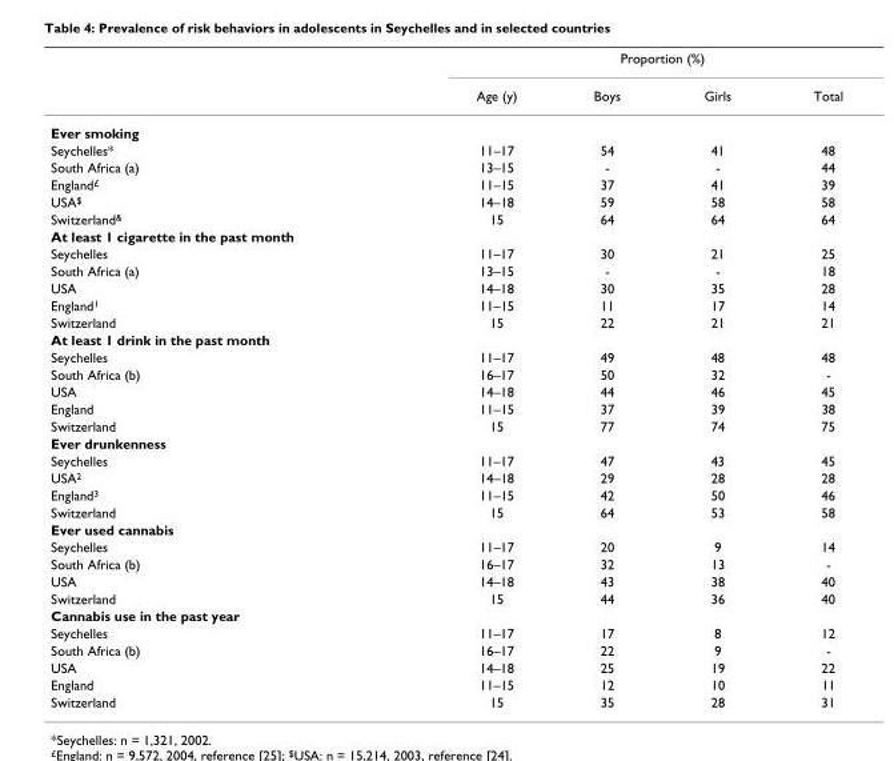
<table><thead><tr><td rowspan="2"></td><td colspan="4">Proportion (%)</td></tr><tr><td>Age (y)</td><td>Boys</td><td>Girls</td><td>Total</td></tr></thead><tbody><tr><td colspan="5">Ever smoking</td></tr><tr><td>Seychelles*</td><td>11–17</td><td>54</td><td>41</td><td>48</td></tr><tr><td>South Africa (a)</td><td>13–15</td><td>-</td><td>-</td><td>44</td></tr><tr><td>England£</td><td>11–15</td><td>37</td><td>41</td><td>39</td></tr><tr><td>USA$</td><td>14–18</td><td>59</td><td>58</td><td>58</td></tr><tr><td>Switzerland&amp;</td><td>15</td><td>64</td><td>64</td><td>64</td></tr><tr><td colspan="5">At least 1 cigarette in the past month</td></tr><tr><td>Seychelles</td><td>11–17</td><td>30</td><td>21</td><td>25</td></tr><tr><td>South Africa (a)</td><td>13–15</td><td>-</td><td>-</td><td>18</td></tr><tr><td>USA</td><td>14–18</td><td>30</td><td>35</td><td>28</td></tr><tr><td>England1</td><td>11–15</td><td>11</td><td>17</td><td>14</td></tr><tr><td>Switzerland</td><td>15</td><td>22</td><td>21</td><td>21</td></tr><tr><td colspan="5">At least 1 drink in the past month</td></tr><tr><td>Seychelles</td><td>11–17</td><td>49</td><td>48</td><td>48</td></tr><tr><td>South Africa (b)</td><td>16–17</td><td>50</td><td>32</td><td>-</td></tr><tr><td>USA</td><td>14–18</td><td>44</td><td>46</td><td>45</td></tr><tr><td>England</td><td>11–15</td><td>37</td><td>39</td><td>38</td></tr><tr><td>Switzerland</td><td>15</td><td>77</td><td>74</td><td>75</td></tr><tr><td colspan="5">Ever drunkenness</td></tr><tr><td>Seychelles</td><td>11–17</td><td>47</td><td>43</td><td>45</td></tr><tr><td>USA2</td><td>14–18</td><td>29</td><td>28</td><td>28</td></tr><tr><td>England3</td><td>11–15</td><td>42</td><td>50</td><td>46</td></tr><tr><td>Switzerland</td><td>15</td><td>64</td><td>53</td><td>58</td></tr><tr><td colspan="5">Ever used cannabis</td></tr><tr><td>Seychelles</td><td>11–17</td><td>20</td><td>9</td><td>14</td></tr><tr><td>South Africa (b)</td><td>16–17</td><td>32</td><td>13</td><td>-</td></tr><tr><td>USA</td><td>14–18</td><td>43</td><td>38</td><td>40</td></tr><tr><td>Switzerland</td><td>15</td><td>44</td><td>36</td><td>40</td></tr><tr><td colspan="5">Cannabis use in the past year</td></tr><tr><td>Seychelles</td><td>11–17</td><td>17</td><td>8</td><td>12</td></tr><tr><td>South Africa (b)</td><td>16–17</td><td>22</td><td>9</td><td>-</td></tr><tr><td>USA</td><td>14–18</td><td>25</td><td>19</td><td>22</td></tr><tr><td>England</td><td>11–15</td><td>12</td><td>10</td><td>11</td></tr><tr><td>Switzerland</td><td>15</td><td>35</td><td>28</td><td>31</td></tr></tbody></table>